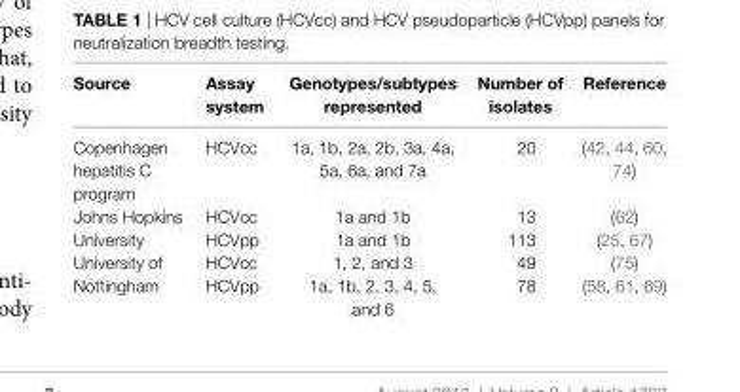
<table><thead><tr><td>Source</td><td>Assay system</td><td>Genotypes/subtypes represented</td><td>Number of isolates</td><td>Reference</td></tr></thead><tbody><tr><td>Copenhagen hepatitis C program</td><td>HCVcc</td><td>1a, 1b, 2a, 2b, 3a, 4a, 5a, 6a, and 7a</td><td>20</td><td>(42, 44, 60, 74)</td></tr><tr><td rowspan="2">Johns Hopkins University</td><td>HCVcc</td><td>1a and 1b</td><td>13</td><td>(62)</td></tr><tr><td>HCVpp</td><td>1a and 1b</td><td>113</td><td>(25, 67)</td></tr><tr><td rowspan="2">University of Nottingham</td><td>HCVcc</td><td>1, 2, and 3</td><td>49</td><td>(75)</td></tr><tr><td>HCVpp</td><td>1a, 1b, 2, 3, 4, 5, and 6</td><td>78</td><td>(58, 61, 69)</td></tr></tbody></table>